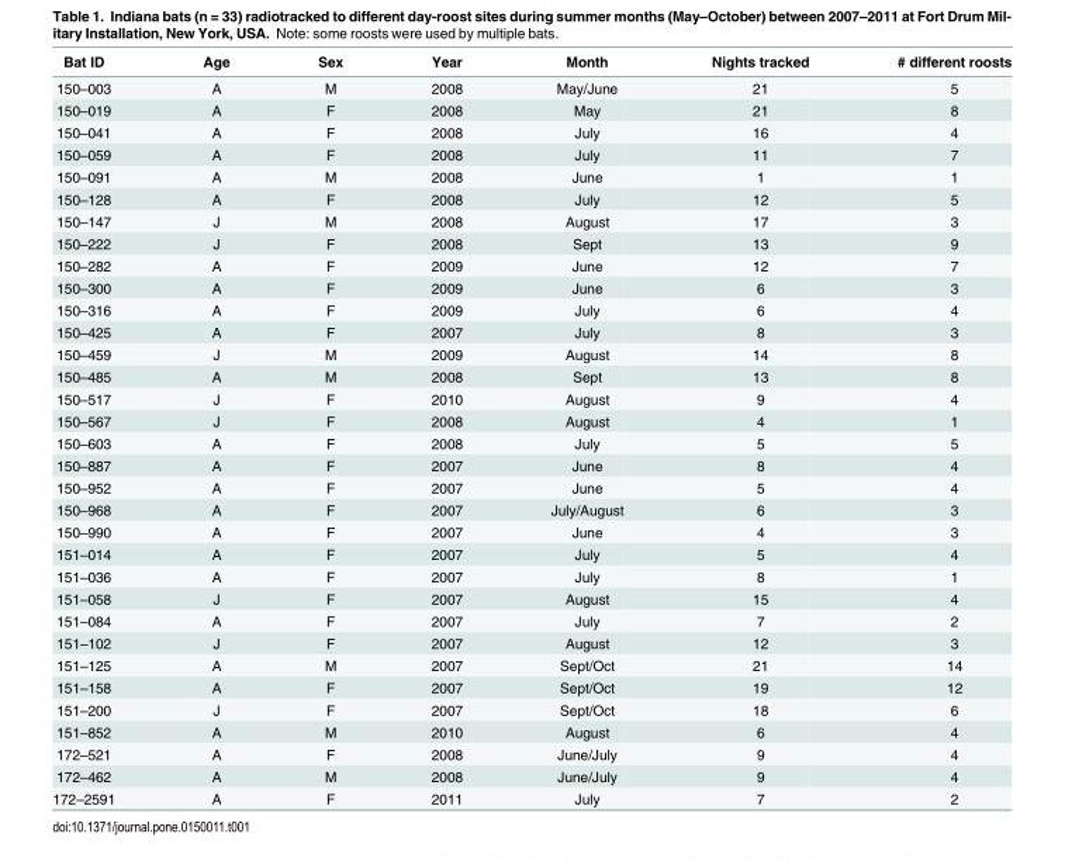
<table><thead><tr><td>Bat ID</td><td>Age</td><td>Sex</td><td>Year</td><td>Month</td><td>Nights tracked</td><td># different roosts</td></tr></thead><tbody><tr><td>150–003</td><td>A</td><td>M</td><td>2008</td><td>May/June</td><td>21</td><td>5</td></tr><tr><td>150–019</td><td>A</td><td>F</td><td>2008</td><td>May</td><td>21</td><td>8</td></tr><tr><td>150–041</td><td>A</td><td>F</td><td>2008</td><td>July</td><td>16</td><td>4</td></tr><tr><td>150–059</td><td>A</td><td>F</td><td>2008</td><td>July</td><td>11</td><td>7</td></tr><tr><td>150–091</td><td>A</td><td>M</td><td>2008</td><td>June</td><td>1</td><td>1</td></tr><tr><td>150–128</td><td>A</td><td>F</td><td>2008</td><td>July</td><td>12</td><td>5</td></tr><tr><td>150–147</td><td>J</td><td>M</td><td>2008</td><td>August</td><td>17</td><td>3</td></tr><tr><td>150–222</td><td>J</td><td>F</td><td>2008</td><td>Sept</td><td>13</td><td>9</td></tr><tr><td>150–282</td><td>A</td><td>F</td><td>2009</td><td>June</td><td>12</td><td>7</td></tr><tr><td>150–300</td><td>A</td><td>F</td><td>2009</td><td>June</td><td>6</td><td>3</td></tr><tr><td>150–316</td><td>A</td><td>F</td><td>2009</td><td>July</td><td>6</td><td>4</td></tr><tr><td>150–425</td><td>A</td><td>F</td><td>2007</td><td>July</td><td>8</td><td>3</td></tr><tr><td>150–459</td><td>J</td><td>M</td><td>2009</td><td>August</td><td>14</td><td>8</td></tr><tr><td>150–485</td><td>A</td><td>M</td><td>2008</td><td>Sept</td><td>13</td><td>8</td></tr><tr><td>150–517</td><td>J</td><td>F</td><td>2010</td><td>August</td><td>9</td><td>4</td></tr><tr><td>150–567</td><td>J</td><td>F</td><td>2008</td><td>August</td><td>4</td><td>1</td></tr><tr><td>150–603</td><td>A</td><td>F</td><td>2008</td><td>July</td><td>5</td><td>5</td></tr><tr><td>150–887</td><td>A</td><td>F</td><td>2007</td><td>June</td><td>8</td><td>4</td></tr><tr><td>150–952</td><td>A</td><td>F</td><td>2007</td><td>June</td><td>5</td><td>4</td></tr><tr><td>150–968</td><td>A</td><td>F</td><td>2007</td><td>July/August</td><td>6</td><td>3</td></tr><tr><td>150–990</td><td>A</td><td>F</td><td>2007</td><td>June</td><td>4</td><td>3</td></tr><tr><td>151–014</td><td>A</td><td>F</td><td>2007</td><td>July</td><td>5</td><td>4</td></tr><tr><td>151–036</td><td>A</td><td>F</td><td>2007</td><td>July</td><td>8</td><td>1</td></tr><tr><td>151–058</td><td>J</td><td>F</td><td>2007</td><td>August</td><td>15</td><td>4</td></tr><tr><td>151–084</td><td>A</td><td>F</td><td>2007</td><td>July</td><td>7</td><td>2</td></tr><tr><td>151–102</td><td>J</td><td>F</td><td>2007</td><td>August</td><td>12</td><td>3</td></tr><tr><td>151–125</td><td>A</td><td>M</td><td>2007</td><td>Sept/Oct</td><td>21</td><td>14</td></tr><tr><td>151–158</td><td>A</td><td>F</td><td>2007</td><td>Sept/Oct</td><td>19</td><td>12</td></tr><tr><td>151–200</td><td>J</td><td>F</td><td>2007</td><td>Sept/Oct</td><td>18</td><td>6</td></tr><tr><td>151–852</td><td>A</td><td>M</td><td>2010</td><td>August</td><td>6</td><td>4</td></tr><tr><td>172–521</td><td>A</td><td>F</td><td>2008</td><td>June/July</td><td>9</td><td>4</td></tr><tr><td>172–462</td><td>A</td><td>M</td><td>2008</td><td>June/July</td><td>9</td><td>4</td></tr><tr><td>172–2591</td><td>A</td><td>F</td><td>2011</td><td>July</td><td>7</td><td>2</td></tr></tbody></table>